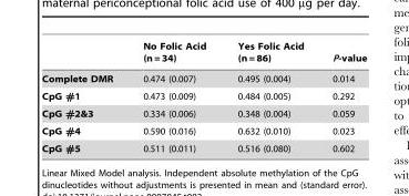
<table><thead><tr><td></td><td>No Folic Acid (n = 34)</td><td>Yes Folic Acid (n = 86)</td><td>P-value</td></tr></thead><tbody><tr><td>Complete DMR</td><td>0.474 (0.007)</td><td>0.495 (0.004)</td><td>0.014</td></tr><tr><td>CpG #1</td><td>0.473 (0.009)</td><td>0.484 (0.005)</td><td>0.292</td></tr><tr><td>CpG #2&amp;3</td><td>0.334 (0.006)</td><td>0.348 (0.004)</td><td>0.059</td></tr><tr><td>CpG #4</td><td>0.590 (0.016)</td><td>0.632 (0.010)</td><td>0.023</td></tr><tr><td>CpG #5</td><td>0.511 (0.011)</td><td>0.516 (0.080)</td><td>0.602</td></tr></tbody></table>